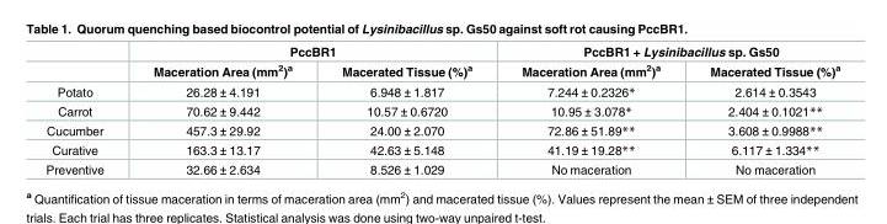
<table><thead><tr><td rowspan="2"></td><td colspan="2">PccBR1</td><td colspan="2">PccBR1 + Lysinibacillus sp. Gs50</td></tr><tr><td>Maceration Area (mm<sup>2</sup>)<sup>a</sup></td><td>Macerated Tissue (%)<sup>a</sup></td><td>Maceration Area (mm<sup>2</sup>)<sup>a</sup></td><td>Macerated Tissue (%)<sup>a</sup></td></tr></thead><tbody><tr><td>Potato</td><td>26.28 ± 4.191</td><td>6.948 ± 1.817</td><td>7.244 ± 0.2326*</td><td>2.614 ± 0.3543</td></tr><tr><td>Carrot</td><td>70.62 ± 9.442</td><td>10.57 ± 0.6720</td><td>10.95 ± 3.078*</td><td>2.404 ± 0.1021**</td></tr><tr><td>Cucumber</td><td>457.3 ± 29.92</td><td>24.00 ± 2.070</td><td>72.86 ± 51.89**</td><td>3.608 ± 0.9988**</td></tr><tr><td>Curative</td><td>163.3 ± 13.17</td><td>42.63 ± 5.148</td><td>41.19 ± 19.28**</td><td>6.117 ± 1.334**</td></tr><tr><td>Preventive</td><td>32.66 ± 2.634</td><td>8.526 ± 1.029</td><td>No maceration</td><td>No maceration</td></tr></tbody></table>